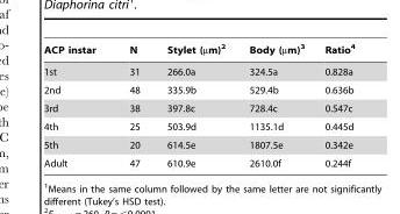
<table><thead><tr><td>ACP instar</td><td>N</td><td>Stylet (µm)<sup>2</sup></td><td>Body (µm)<sup>3</sup></td><td>Ratio<sup>4</sup></td></tr></thead><tbody><tr><td>1st</td><td>31</td><td>266.0a</td><td>324.5a</td><td>0.828a</td></tr><tr><td>2nd</td><td>48</td><td>335.9b</td><td>529.4b</td><td>0.636b</td></tr><tr><td>3rd</td><td>38</td><td>397.8c</td><td>728.4c</td><td>0.547c</td></tr><tr><td>4th</td><td>25</td><td>503.9d</td><td>1135.1d</td><td>0.445d</td></tr><tr><td>5th</td><td>20</td><td>614.5e</td><td>1807.5e</td><td>0.342e</td></tr><tr><td>Adult</td><td>47</td><td>610.9e</td><td>2610.0f</td><td>0.244f</td></tr></tbody></table>